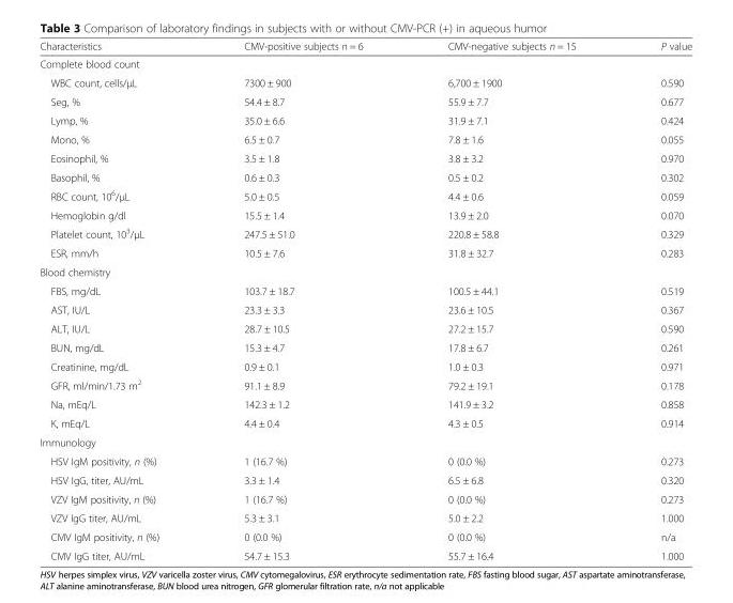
<table><thead><tr><td>Characteristics</td><td>CMV-positive subjects n = 6</td><td>CMV-negative subjects n = 15</td><td>P value</td></tr></thead><tbody><tr><td colspan="4">Complete blood count</td></tr><tr><td>WBC count, cells/μL</td><td>7300 ± 900</td><td>6,700 ± 1900</td><td>0.590</td></tr><tr><td>Seg, %</td><td>54.4 ± 8.7</td><td>55.9 ± 7.7</td><td>0.677</td></tr><tr><td>Lymp, %</td><td>35.0 ± 6.6</td><td>31.9 ± 7.1</td><td>0.424</td></tr><tr><td>Mono, %</td><td>6.5 ± 0.7</td><td>7.8 ± 1.6</td><td>0.055</td></tr><tr><td>Eosinophil, %</td><td>3.5 ± 1.8</td><td>3.8 ± 3.2</td><td>0.970</td></tr><tr><td>Basophil, %</td><td>0.6 ± 0.3</td><td>0.5 ± 0.2</td><td>0.302</td></tr><tr><td>RBC count, 10<sup>6</sup>/μL</td><td>5.0 ± 0.5</td><td>4.4 ± 0.6</td><td>0.059</td></tr><tr><td>Hemoglobin g/dl</td><td>15.5 ± 1.4</td><td>13.9 ± 2.0</td><td>0.070</td></tr><tr><td>Platelet count, 10<sup>3</sup>/μL</td><td>247.5 ± 51.0</td><td>220.8 ± 58.8</td><td>0.329</td></tr><tr><td>ESR, mm/h</td><td>10.5 ± 7.6</td><td>31.8 ± 32.7</td><td>0.283</td></tr><tr><td colspan="4">Blood chemistry</td></tr><tr><td>FBS, mg/dL</td><td>103.7 ± 18.7</td><td>100.5 ± 44.1</td><td>0.519</td></tr><tr><td>AST, IU/L</td><td>23.3 ± 3.3</td><td>23.6 ± 10.5</td><td>0.367</td></tr><tr><td>ALT, IU/L</td><td>28.7 ± 10.5</td><td>27.2 ± 15.7</td><td>0.590</td></tr><tr><td>BUN, mg/dL</td><td>15.3 ± 4.7</td><td>17.8 ± 6.7</td><td>0.261</td></tr><tr><td>Creatinine, mg/dL</td><td>0.9 ± 0.1</td><td>1.0 ± 0.3</td><td>0.971</td></tr><tr><td>GFR, ml/min/1.73 m<sup>2</sup></td><td>91.1 ± 8.9</td><td>79.2 ± 19.1</td><td>0.178</td></tr><tr><td>Na, mEq/L</td><td>142.3 ± 1.2</td><td>141.9 ± 3.2</td><td>0.858</td></tr><tr><td>K, mEq/L</td><td>4.4 ± 0.4</td><td>4.3 ± 0.5</td><td>0.914</td></tr><tr><td colspan="4">Immunology</td></tr><tr><td>HSV IgM positivity, n (%)</td><td>1 (16.7 %)</td><td>0 (0.0 %)</td><td>0.273</td></tr><tr><td>HSV IgG, titer, AU/mL</td><td>3.3 ± 1.4</td><td>6.5 ± 6.8</td><td>0.320</td></tr><tr><td>VZV IgM positivity, n (%)</td><td>1 (16.7 %)</td><td>0 (0.0 %)</td><td>0.273</td></tr><tr><td>VZV IgG titer, AU/mL</td><td>5.3 ± 3.1</td><td>5.0 ± 2.2</td><td>1.000</td></tr><tr><td>CMV IgM positivity, n (%)</td><td>0 (0.0 %)</td><td>0 (0.0 %)</td><td>n/a</td></tr><tr><td>CMV IgG titer, AU/mL</td><td>54.7 ± 15.3</td><td>55.7 ± 16.4</td><td>1.000</td></tr></tbody></table>